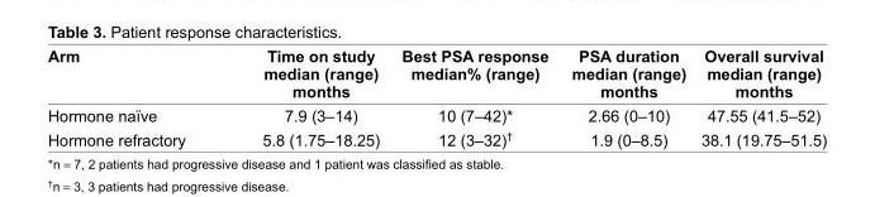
<table><thead><tr><td>Arm</td><td>Time on study median (range) months</td><td>Best PSA response median% (range)</td><td>PSA duration median (range) months</td><td>Overall survival median (range) months</td></tr></thead><tbody><tr><td>Hormone naïve</td><td>7.9 (3–14)</td><td>10 (7–42)*</td><td>2.66 (0–10)</td><td>47.55 (41.5–52)</td></tr><tr><td>Hormone refractory</td><td>5.8 (1.75–18.25)</td><td>12 (3–32)†</td><td>1.9 (0–8.5)</td><td>38.1 (19.75–51.5)</td></tr></tbody></table>